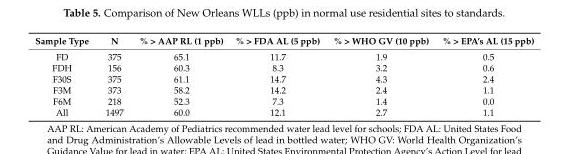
<table><thead><tr><td>Sample Type</td><td>N</td><td>% &gt; AAP RL (1 ppb)</td><td>% &gt; FDA AL (5 ppb)</td><td>% &gt; WHO GV (10 ppb)</td><td>% &gt; EPA’s AL (15 ppb)</td></tr></thead><tbody><tr><td>FD</td><td>375</td><td>65.1</td><td>11.7</td><td>1.9</td><td>0.5</td></tr><tr><td>FDH</td><td>156</td><td>60.3</td><td>8.3</td><td>3.2</td><td>0.6</td></tr><tr><td>F30S</td><td>375</td><td>61.1</td><td>14.7</td><td>4.3</td><td>2.4</td></tr><tr><td>F3M</td><td>373</td><td>58.2</td><td>14.2</td><td>2.4</td><td>1.1</td></tr><tr><td>F6M</td><td>218</td><td>52.3</td><td>7.3</td><td>1.4</td><td>0.0</td></tr><tr><td>All</td><td>1497</td><td>60.0</td><td>12.1</td><td>2.7</td><td>1.1</td></tr></tbody></table>